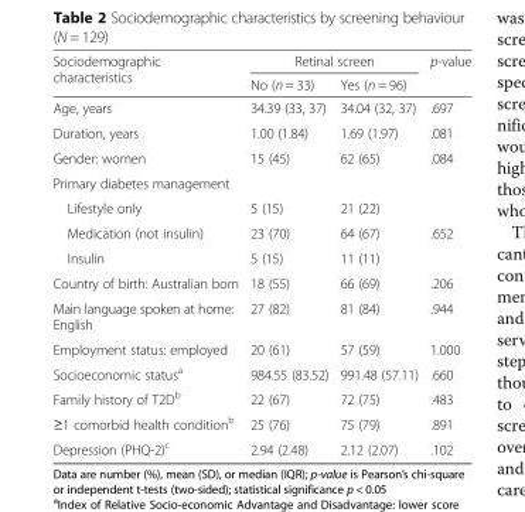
<table><thead><tr><td rowspan="2">Sociodemographic characteristics</td><td colspan="2">Retinal screen</td><td rowspan="2">p-value</td></tr><tr><td>No (n = 33)</td><td>Yes (n = 96)</td></tr></thead><tbody><tr><td>Age, years</td><td>34.39 (33, 37)</td><td>34.04 (32, 37)</td><td>.697</td></tr><tr><td>Duration, years</td><td>1.00 (1.84)</td><td>1.69 (1.97)</td><td>.081</td></tr><tr><td>Gender: women</td><td>15 (45)</td><td>62 (65)</td><td>.084</td></tr><tr><td colspan="4">Primary diabetes management</td></tr><tr><td>Lifestyle only</td><td>5 (15)</td><td>21 (22)</td><td></td></tr><tr><td>Medication (not insulin)</td><td>23 (70)</td><td>64 (67)</td><td>.652</td></tr><tr><td>Insulin</td><td>5 (15)</td><td>11 (11)</td><td></td></tr><tr><td>Country of birth: Australian born</td><td>18 (55)</td><td>66 (69)</td><td>.206</td></tr><tr><td>Main language spoken at home: English</td><td>27 (82)</td><td>81 (84)</td><td>.944</td></tr><tr><td>Employment status: employed</td><td>20 (61)</td><td>57 (59)</td><td>1.000</td></tr><tr><td>Socioeconomic status<sup>a</sup></td><td>984.55 (83.52)</td><td>991.48 (57.11)</td><td>.660</td></tr><tr><td>Family history of T2D<sup>b</sup></td><td>22 (67)</td><td>72 (75)</td><td>.483</td></tr><tr><td>≥1 comorbid health condition<sup>b</sup></td><td>25 (76)</td><td>75 (79)</td><td>.891</td></tr><tr><td>Depression (PHQ-2)<sup>c</sup></td><td>2.94 (2.48)</td><td>2.12 (2.07)</td><td>.102</td></tr></tbody></table>